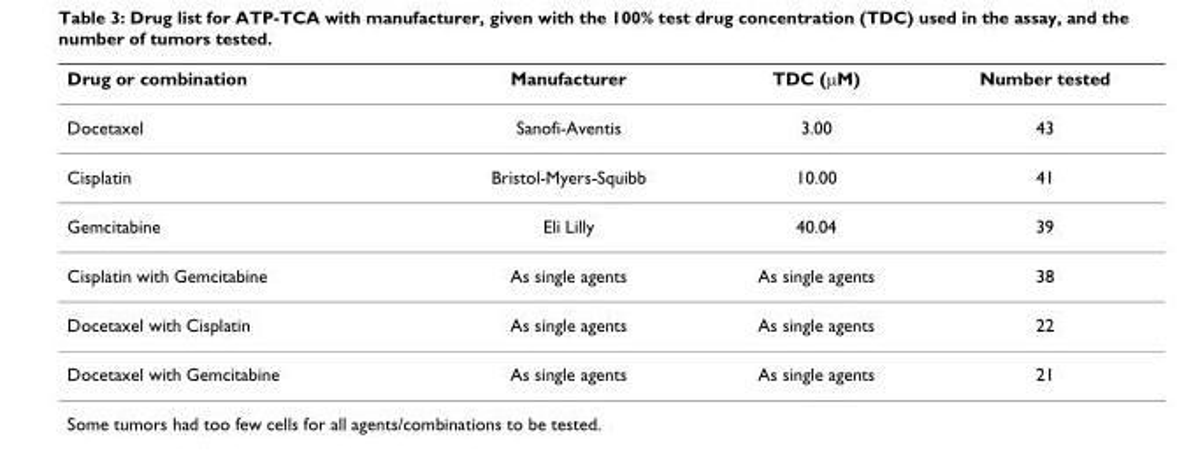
<table><thead><tr><td>Drug or combination</td><td>Manufacturer</td><td>TDC (μM)</td><td>Number tested</td></tr></thead><tbody><tr><td>Docetaxel</td><td>Sanofi-Aventis</td><td>3.00</td><td>43</td></tr><tr><td>Cisplatin</td><td>Bristol-Myers-Squibb</td><td>10.00</td><td>41</td></tr><tr><td>Gemcitabine</td><td>Eli Lilly</td><td>40.04</td><td>39</td></tr><tr><td>Cisplatin with Gemcitabine</td><td>As single agents</td><td>As single agents</td><td>38</td></tr><tr><td>Docetaxel with Cisplatin</td><td>As single agents</td><td>As single agents</td><td>22</td></tr><tr><td>Docetaxel with Gemcitabine</td><td>As single agents</td><td>As single agents</td><td>21</td></tr></tbody></table>